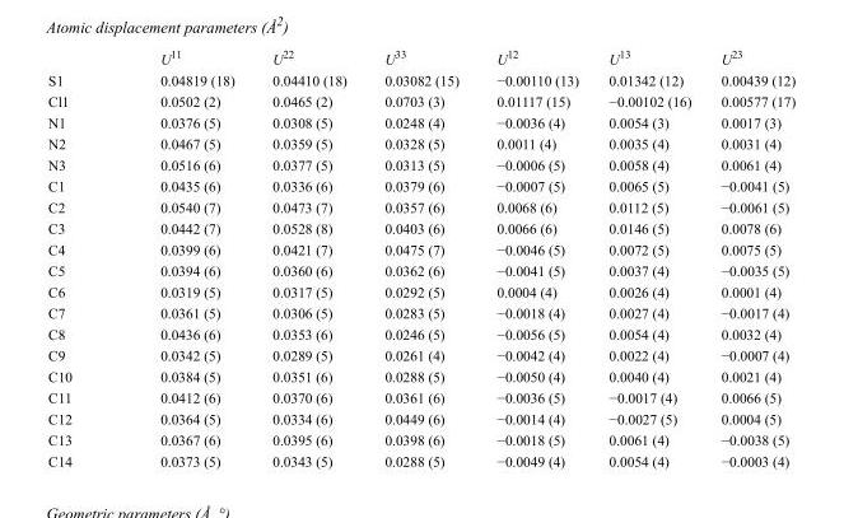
<table><thead><tr><td></td><td>U<sup>11</sup></td><td>U<sup>22</sup></td><td>U<sup>33</sup></td><td>U<sup>12</sup></td><td>U<sup>13</sup></td><td>U<sup>23</sup></td></tr></thead><tbody><tr><td>S1</td><td>0.04819 (18)</td><td>0.04410 (18)</td><td>0.03082 (15)</td><td>−0.00110 (13)</td><td>0.01342 (12)</td><td>0.00439 (12)</td></tr><tr><td>Cl1</td><td>0.0502 (2)</td><td>0.0465 (2)</td><td>0.0703 (3)</td><td>0.01117 (15)</td><td>−0.00102 (16)</td><td>0.00577 (17)</td></tr><tr><td>N1</td><td>0.0376 (5)</td><td>0.0308 (5)</td><td>0.0248 (4)</td><td>−0.0036 (4)</td><td>0.0054 (3)</td><td>0.0017 (3)</td></tr><tr><td>N2</td><td>0.0467 (5)</td><td>0.0359 (5)</td><td>0.0328 (5)</td><td>0.0011 (4)</td><td>0.0035 (4)</td><td>0.0031 (4)</td></tr><tr><td>N3</td><td>0.0516 (6)</td><td>0.0377 (5)</td><td>0.0313 (5)</td><td>−0.0006 (5)</td><td>0.0058 (4)</td><td>0.0061 (4)</td></tr><tr><td>C1</td><td>0.0435 (6)</td><td>0.0336 (6)</td><td>0.0379 (6)</td><td>−0.0007 (5)</td><td>0.0065 (5)</td><td>−0.0041 (5)</td></tr><tr><td>C2</td><td>0.0540 (7)</td><td>0.0473 (7)</td><td>0.0357 (6)</td><td>0.0068 (6)</td><td>0.0112 (5)</td><td>−0.0061 (5)</td></tr><tr><td>C3</td><td>0.0442 (7)</td><td>0.0528 (8)</td><td>0.0403 (6)</td><td>0.0066 (6)</td><td>0.0146 (5)</td><td>0.0078 (6)</td></tr><tr><td>C4</td><td>0.0399 (6)</td><td>0.0421 (7)</td><td>0.0475 (7)</td><td>−0.0046 (5)</td><td>0.0072 (5)</td><td>0.0075 (5)</td></tr><tr><td>C5</td><td>0.0394 (6)</td><td>0.0360 (6)</td><td>0.0362 (6)</td><td>−0.0041 (5)</td><td>0.0037 (4)</td><td>−0.0035 (5)</td></tr><tr><td>C6</td><td>0.0319 (5)</td><td>0.0317 (5)</td><td>0.0292 (5)</td><td>0.0004 (4)</td><td>0.0026 (4)</td><td>0.0001 (4)</td></tr><tr><td>C7</td><td>0.0361 (5)</td><td>0.0306 (5)</td><td>0.0283 (5)</td><td>−0.0018 (4)</td><td>0.0027 (4)</td><td>−0.0017 (4)</td></tr><tr><td>C8</td><td>0.0436 (6)</td><td>0.0353 (6)</td><td>0.0246 (5)</td><td>−0.0056 (5)</td><td>0.0054 (4)</td><td>0.0032 (4)</td></tr><tr><td>C9</td><td>0.0342 (5)</td><td>0.0289 (5)</td><td>0.0261 (4)</td><td>−0.0042 (4)</td><td>0.0022 (4)</td><td>−0.0007 (4)</td></tr><tr><td>C10</td><td>0.0384 (5)</td><td>0.0351 (6)</td><td>0.0288 (5)</td><td>−0.0050 (4)</td><td>0.0040 (4)</td><td>0.0021 (4)</td></tr><tr><td>C11</td><td>0.0412 (6)</td><td>0.0370 (6)</td><td>0.0361 (6)</td><td>−0.0036 (5)</td><td>−0.0017 (4)</td><td>0.0066 (5)</td></tr><tr><td>C12</td><td>0.0364 (5)</td><td>0.0334 (6)</td><td>0.0449 (6)</td><td>−0.0014 (4)</td><td>−0.0027 (5)</td><td>0.0004 (5)</td></tr><tr><td>C13</td><td>0.0367 (6)</td><td>0.0395 (6)</td><td>0.0398 (6)</td><td>−0.0018 (5)</td><td>0.0061 (4)</td><td>−0.0038 (5)</td></tr><tr><td>C14</td><td>0.0373 (5)</td><td>0.0343 (5)</td><td>0.0288 (5)</td><td>−0.0049 (4)</td><td>0.0054 (4)</td><td>−0.0003 (4)</td></tr></tbody></table>